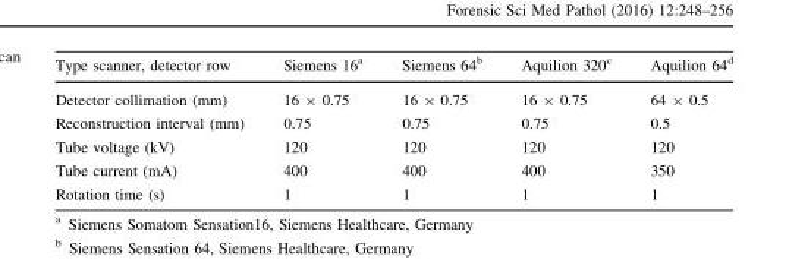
<table><thead><tr><td>Type scanner, detector row</td><td>Siemens 16<sup>a</sup></td><td>Siemens 64<sup>b</sup></td><td>Aquilion 320<sup>c</sup></td><td>Aquilion 64<sup>d</sup></td></tr></thead><tbody><tr><td>Detector collimation (mm)</td><td>16 × 0.75</td><td>16 × 0.75</td><td>16 × 0.75</td><td>64 × 0.5</td></tr><tr><td>Reconstruction interval (mm)</td><td>0.75</td><td>0.75</td><td>0.75</td><td>0.5</td></tr><tr><td>Tube voltage (kV)</td><td>120</td><td>120</td><td>120</td><td>120</td></tr><tr><td>Tube current (mA)</td><td>400</td><td>400</td><td>400</td><td>350</td></tr><tr><td>Rotation time (s)</td><td>1</td><td>1</td><td>1</td><td>1</td></tr></tbody></table>